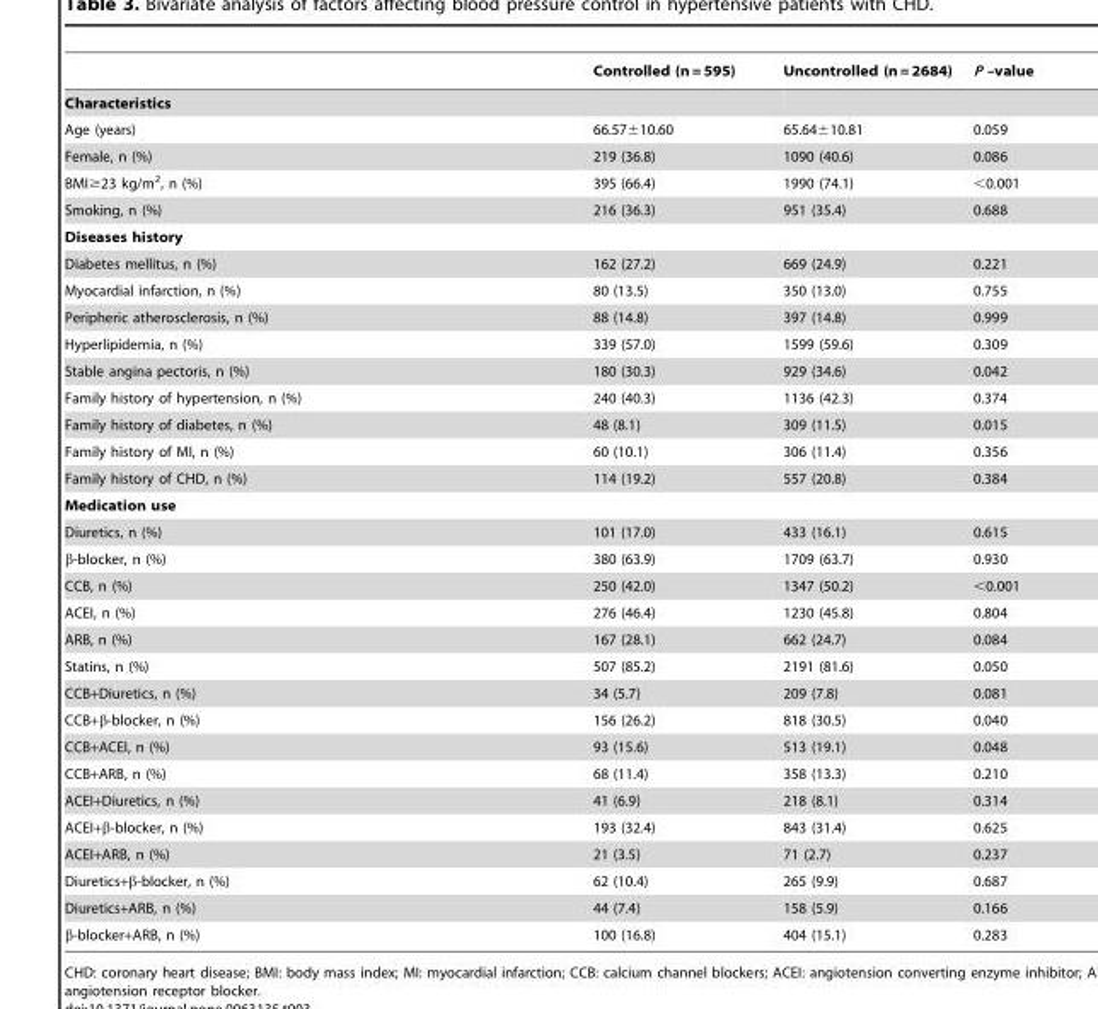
<table><thead><tr><td></td><td>Controlled (n = 595)</td><td>Uncontrolled (n = 2684)</td><td>P –value</td></tr></thead><tbody><tr><td colspan="4">Characteristics</td></tr><tr><td>Age (years)</td><td>66.57±10.60</td><td>65.64±10.81</td><td>0.059</td></tr><tr><td>Female, n (%)</td><td>219 (36.8)</td><td>1090 (40.6)</td><td>0.086</td></tr><tr><td>BMI≥23 kg/m<sup>2</sup>, n (%)</td><td>395 (66.4)</td><td>1990 (74.1)</td><td>&lt;0.001</td></tr><tr><td>Smoking, n (%)</td><td>216 (36.3)</td><td>951 (35.4)</td><td>0.688</td></tr><tr><td colspan="4">Diseases history</td></tr><tr><td>Diabetes mellitus, n (%)</td><td>162 (27.2)</td><td>669 (24.9)</td><td>0.221</td></tr><tr><td>Myocardial infarction, n (%)</td><td>80 (13.5)</td><td>350 (13.0)</td><td>0.755</td></tr><tr><td>Peripheric atherosclerosis, n (%)</td><td>88 (14.8)</td><td>397 (14.8)</td><td>0.999</td></tr><tr><td>Hyperlipidemia, n (%)</td><td>339 (57.0)</td><td>1599 (59.6)</td><td>0.309</td></tr><tr><td>Stable angina pectoris, n (%)</td><td>180 (30.3)</td><td>929 (34.6)</td><td>0.042</td></tr><tr><td>Family history of hypertension, n (%)</td><td>240 (40.3)</td><td>1136 (42.3)</td><td>0.374</td></tr><tr><td>Family history of diabetes, n (%)</td><td>48 (8.1)</td><td>309 (11.5)</td><td>0.015</td></tr><tr><td>Family history of MI, n (%)</td><td>60 (10.1)</td><td>306 (11.4)</td><td>0.356</td></tr><tr><td>Family history of CHD, n (%)</td><td>114 (19.2)</td><td>557 (20.8)</td><td>0.384</td></tr><tr><td colspan="4">Medication use</td></tr><tr><td>Diuretics, n (%)</td><td>101 (17.0)</td><td>433 (16.1)</td><td>0.615</td></tr><tr><td>β-blocker, n (%)</td><td>380 (63.9)</td><td>1709 (63.7)</td><td>0.930</td></tr><tr><td>CCB, n (%)</td><td>250 (42.0)</td><td>1347 (50.2)</td><td>&lt;0.001</td></tr><tr><td>ACEI, n (%)</td><td>276 (46.4)</td><td>1230 (45.8)</td><td>0.804</td></tr><tr><td>ARB, n (%)</td><td>167 (28.1)</td><td>662 (24.7)</td><td>0.084</td></tr><tr><td>Statins, n (%)</td><td>507 (85.2)</td><td>2191 (81.6)</td><td>0.050</td></tr><tr><td>CCB+Diuretics, n (%)</td><td>34 (5.7)</td><td>209 (7.8)</td><td>0.081</td></tr><tr><td>CCB+β-blocker, n (%)</td><td>156 (26.2)</td><td>818 (30.5)</td><td>0.040</td></tr><tr><td>CCB+ACEI, n (%)</td><td>93 (15.6)</td><td>513 (19.1)</td><td>0.048</td></tr><tr><td>CCB+ARB, n (%)</td><td>68 (11.4)</td><td>358 (13.3)</td><td>0.210</td></tr><tr><td>ACEI+Diuretics, n (%)</td><td>41 (6.9)</td><td>218 (8.1)</td><td>0.314</td></tr><tr><td>ACEI+β-blocker, n (%)</td><td>193 (32.4)</td><td>843 (31.4)</td><td>0.625</td></tr><tr><td>ACEI+ARB, n (%)</td><td>21 (3.5)</td><td>71 (2.7)</td><td>0.237</td></tr><tr><td>Diuretics+β-blocker, n (%)</td><td>62 (10.4)</td><td>265 (9.9)</td><td>0.687</td></tr><tr><td>Diuretics+ARB, n (%)</td><td>44 (7.4)</td><td>158 (5.9)</td><td>0.166</td></tr><tr><td>β-blocker+ARB, n (%)</td><td>100 (16.8)</td><td>404 (15.1)</td><td>0.283</td></tr></tbody></table>